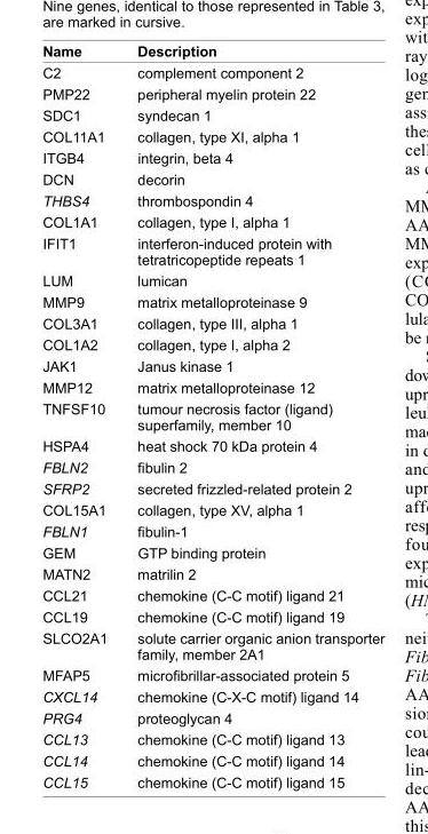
<table><thead><tr><td>Name</td><td>Description</td></tr></thead><tbody><tr><td>C2</td><td>complement component 2</td></tr><tr><td>PMP22</td><td>peripheral myelin protein 22</td></tr><tr><td>SDC1</td><td>syndecan 1</td></tr><tr><td>COL11A1</td><td>collagen, type XI, alpha 1</td></tr><tr><td>ITGB4</td><td>integrin, beta 4</td></tr><tr><td>DCN</td><td>decorin</td></tr><tr><td>THBS4</td><td>thrombospondin 4</td></tr><tr><td>COL1A1</td><td>collagen, type I, alpha 1</td></tr><tr><td>IFIT1</td><td>interferon-induced protein with tetratricopeptide repeats 1</td></tr><tr><td>LUM</td><td>lumican</td></tr><tr><td>MMP9</td><td>matrix metalloproteinase 9</td></tr><tr><td>COL3A1</td><td>collagen, type III, alpha 1</td></tr><tr><td>COL1A2</td><td>collagen, type I, alpha 2</td></tr><tr><td>JAK1</td><td>Janus kinase 1</td></tr><tr><td>MMP12</td><td>matrix metalloproteinase 12</td></tr><tr><td>TNFSF10</td><td>tumour necrosis factor (ligand) superfamily, member 10</td></tr><tr><td>HSPA4</td><td>heat shock 70 kDa protein 4</td></tr><tr><td>FBLN2</td><td>fi bulin 2</td></tr><tr><td>SFRP2</td><td>secreted frizzled-related protein 2</td></tr><tr><td>COL15A1</td><td>collagen, type XV, alpha 1</td></tr><tr><td>FBLN1</td><td>fi bulin-1</td></tr><tr><td>GEM</td><td>GTP binding protein</td></tr><tr><td>MATN2</td><td>matrilin 2</td></tr><tr><td>CCL21</td><td>chemokine (C-C motif) ligand 21</td></tr><tr><td>CCL19</td><td>chemokine (C-C motif) ligand 19</td></tr><tr><td>SLCO2A1</td><td>solute carrier organic anion transporter family, member 2A1</td></tr><tr><td>MFAP5</td><td>microfi brillar-associated protein 5</td></tr><tr><td>CXCL14</td><td>chemokine (C-X-C motif) ligand 14</td></tr><tr><td>PRG4</td><td>proteoglycan 4</td></tr><tr><td>CCL13</td><td>chemokine (C-C motif) ligand 13</td></tr><tr><td>CCL14</td><td>chemokine (C-C motif) ligand 14</td></tr><tr><td>CCL15</td><td>chemokine (C-C motif) ligand 15</td></tr></tbody></table>